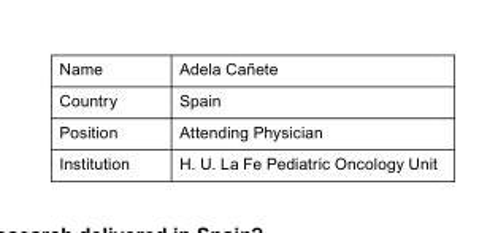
<table><tbody><tr><td>Name</td><td>Adela Cañete</td></tr><tr><td>Country</td><td>Spain</td></tr><tr><td>Position</td><td>Attending Physician</td></tr><tr><td>Institution</td><td>H. U. La Fe Pediatric Oncology Unit</td></tr></tbody></table>